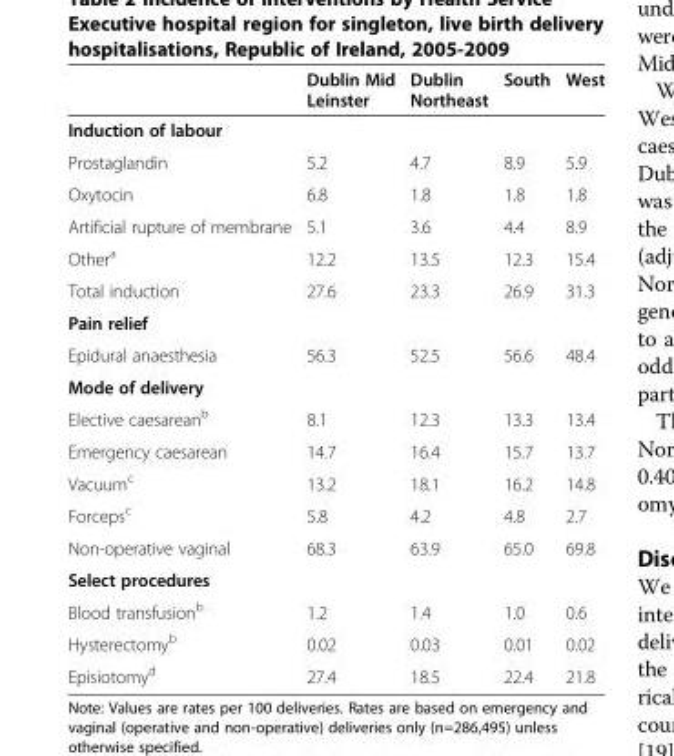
<table><thead><tr><td></td><td>Dublin Mid Leinster</td><td>Dublin Northeast</td><td>South</td><td>West</td></tr></thead><tbody><tr><td colspan="5">Induction of labour</td></tr><tr><td>Prostaglandin</td><td>5.2</td><td>4.7</td><td>8.9</td><td>5.9</td></tr><tr><td>Oxytocin</td><td>6.8</td><td>1.8</td><td>1.8</td><td>1.8</td></tr><tr><td>Artificial rupture of membrane</td><td>5.1</td><td>3.6</td><td>4.4</td><td>8.9</td></tr><tr><td>Other<sup>a</sup></td><td>12.2</td><td>13.5</td><td>12.3</td><td>15.4</td></tr><tr><td>Total induction</td><td>27.6</td><td>23.3</td><td>26.9</td><td>31.3</td></tr><tr><td colspan="5">Pain relief</td></tr><tr><td>Epidural anaesthesia</td><td>56.3</td><td>52.5</td><td>56.6</td><td>48.4</td></tr><tr><td colspan="5">Mode of delivery</td></tr><tr><td>Elective caesarean<sup>b</sup></td><td>8.1</td><td>12.3</td><td>13.3</td><td>13.4</td></tr><tr><td>Emergency caesarean</td><td>14.7</td><td>16.4</td><td>15.7</td><td>13.7</td></tr><tr><td>Vacuum<sup>c</sup></td><td>13.2</td><td>18.1</td><td>16.2</td><td>14.8</td></tr><tr><td>Forceps<sup>c</sup></td><td>5.8</td><td>4.2</td><td>4.8</td><td>2.7</td></tr><tr><td>Non-operative vaginal</td><td>68.3</td><td>63.9</td><td>65.0</td><td>69.8</td></tr><tr><td colspan="5">Select procedures</td></tr><tr><td>Blood transfusion<sup>b</sup></td><td>1.2</td><td>1.4</td><td>1.0</td><td>0.6</td></tr><tr><td>Hysterectomy<sup>b</sup></td><td>0.02</td><td>0.03</td><td>0.01</td><td>0.02</td></tr><tr><td>Episiotomy<sup>d</sup></td><td>27.4</td><td>18.5</td><td>22.4</td><td>21.8</td></tr></tbody></table>